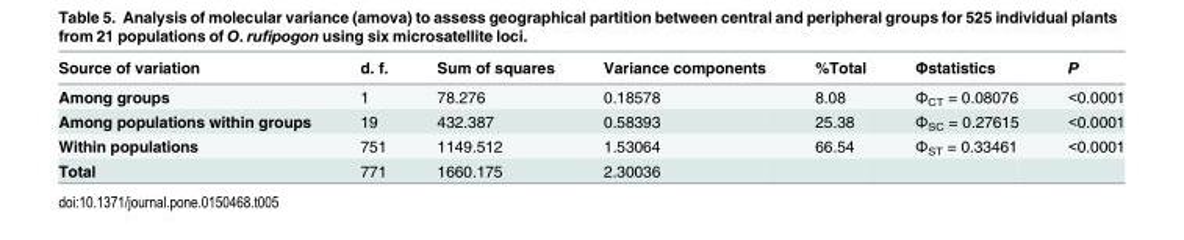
<table><thead><tr><td>Source of variation</td><td>d. f.</td><td>Sum of squares</td><td>Variance components</td><td>%Total</td><td>Φstatistics</td><td>P</td></tr></thead><tbody><tr><td>Among groups</td><td>1</td><td>78.276</td><td>0.18578</td><td>8.08</td><td>Φ<sub>CT</sub> = 0.08076</td><td>&lt;0.0001</td></tr><tr><td>Among populations within groups</td><td>19</td><td>432.387</td><td>0.58393</td><td>25.38</td><td>Φ<sub>SC</sub> = 0.27615</td><td>&lt;0.0001</td></tr><tr><td>Within populations</td><td>751</td><td>1149.512</td><td>1.53064</td><td>66.54</td><td>Φ<sub>ST</sub> = 0.33461</td><td>&lt;0.0001</td></tr><tr><td>Total</td><td>771</td><td>1660.175</td><td>2.30036</td><td></td><td></td><td></td></tr></tbody></table>